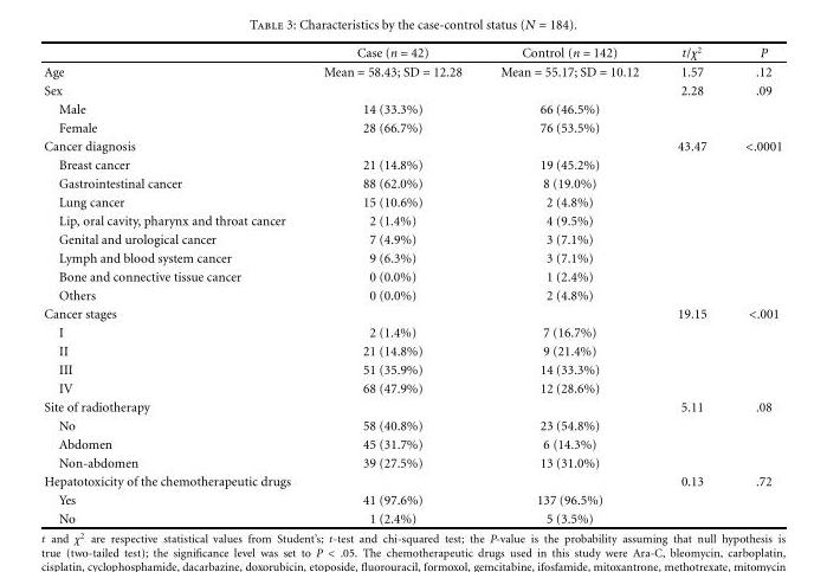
<table><thead><tr><td></td><td>Case (n = 42)</td><td>Control (n = 142)</td><td>t/χ<sup>2</sup></td><td>P</td></tr></thead><tbody><tr><td>Age</td><td>Mean = 58.43; SD = 12.28</td><td>Mean = 55.17; SD = 10.12</td><td>1.57</td><td>.12</td></tr><tr><td>Sex</td><td></td><td></td><td>2.28</td><td>.09</td></tr><tr><td>Male</td><td>14 (33.3%)</td><td>66 (46.5%)</td><td></td><td></td></tr><tr><td>Female</td><td>28 (66.7%)</td><td>76 (53.5%)</td><td></td><td></td></tr><tr><td>Cancer diagnosis</td><td></td><td></td><td>43.47</td><td>&lt;.0001</td></tr><tr><td>Breast cancer</td><td>21 (14.8%)</td><td>19 (45.2%)</td><td></td><td></td></tr><tr><td>Gastrointestinal cancer</td><td>88 (62.0%)</td><td>8 (19.0%)</td><td></td><td></td></tr><tr><td>Lung cancer</td><td>15 (10.6%)</td><td>2 (4.8%)</td><td></td><td></td></tr><tr><td>Lip, oral cavity, pharynx and throat cancer</td><td>2 (1.4%)</td><td>4 (9.5%)</td><td></td><td></td></tr><tr><td>Genital and urological cancer</td><td>7 (4.9%)</td><td>3 (7.1%)</td><td></td><td></td></tr><tr><td>Lymph and blood system cancer</td><td>9 (6.3%)</td><td>3 (7.1%)</td><td></td><td></td></tr><tr><td>Bone and connective tissue cancer</td><td>0 (0.0%)</td><td>1 (2.4%)</td><td></td><td></td></tr><tr><td>Others</td><td>0 (0.0%)</td><td>2 (4.8%)</td><td></td><td></td></tr><tr><td>Cancer stages</td><td></td><td></td><td>19.15</td><td>&lt;.001</td></tr><tr><td>I</td><td>2 (1.4%)</td><td>7 (16.7%)</td><td></td><td></td></tr><tr><td>II</td><td>21 (14.8%)</td><td>9 (21.4%)</td><td></td><td></td></tr><tr><td>III</td><td>51 (35.9%)</td><td>14 (33.3%)</td><td></td><td></td></tr><tr><td>IV</td><td>68 (47.9%)</td><td>12 (28.6%)</td><td></td><td></td></tr><tr><td>Site of radiotherapy</td><td></td><td></td><td>5.11</td><td>.08</td></tr><tr><td>No</td><td>58 (40.8%)</td><td>23 (54.8%)</td><td></td><td></td></tr><tr><td>Abdomen</td><td>45 (31.7%)</td><td>6 (14.3%)</td><td></td><td></td></tr><tr><td>Non-abdomen</td><td>39 (27.5%)</td><td>13 (31.0%)</td><td></td><td></td></tr><tr><td>Hepatotoxicity of the chemotherapeutic drugs</td><td></td><td></td><td>0.13</td><td>.72</td></tr><tr><td>Yes</td><td>41 (97.6%)</td><td>137 (96.5%)</td><td></td><td></td></tr><tr><td>No</td><td>1 (2.4%)</td><td>5 (3.5%)</td><td></td><td></td></tr></tbody></table>